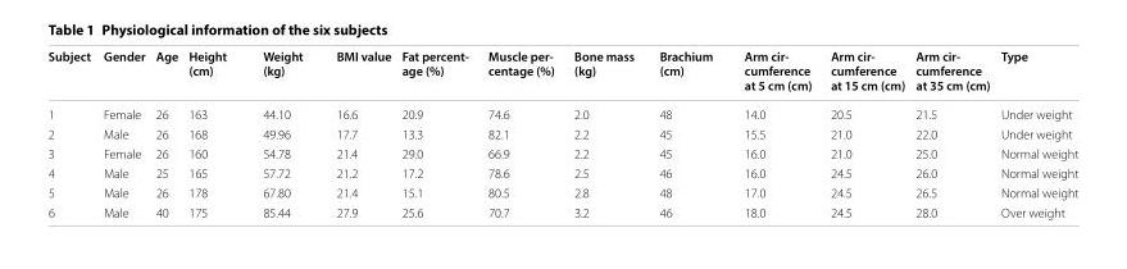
<table><thead><tr><td>Subject</td><td>Gender</td><td>Age</td><td>Height (cm)</td><td>Weight (kg)</td><td>BMI value</td><td>Fat percent- age (%)</td><td>Muscle per- centage (%)</td><td>Bone mass (kg)</td><td>Brachium (cm)</td><td>Arm cir- cumference at 5 cm (cm)</td><td>Arm cir- cumference at 15 cm (cm)</td><td>Arm cir- cumference at 35 cm (cm)</td><td>Type</td></tr></thead><tbody><tr><td>1</td><td>Female</td><td>26</td><td>163</td><td>44.10</td><td>16.6</td><td>20.9</td><td>74.6</td><td>2.0</td><td>48</td><td>14.0</td><td>20.5</td><td>21.5</td><td>Under weight</td></tr><tr><td>2</td><td>Male</td><td>26</td><td>168</td><td>49.96</td><td>17.7</td><td>13.3</td><td>82.1</td><td>2.2</td><td>45</td><td>15.5</td><td>21.0</td><td>22.0</td><td>Under weight</td></tr><tr><td>3</td><td>Female</td><td>26</td><td>160</td><td>54.78</td><td>21.4</td><td>29.0</td><td>66.9</td><td>2.2</td><td>45</td><td>16.0</td><td>21.0</td><td>25.0</td><td>Normal weight</td></tr><tr><td>4</td><td>Male</td><td>25</td><td>165</td><td>57.72</td><td>21.2</td><td>17.2</td><td>78.6</td><td>2.5</td><td>46</td><td>16.0</td><td>24.5</td><td>26.0</td><td>Normal weight</td></tr><tr><td>5</td><td>Male</td><td>26</td><td>178</td><td>67.80</td><td>21.4</td><td>15.1</td><td>80.5</td><td>2.8</td><td>48</td><td>17.0</td><td>24.5</td><td>26.5</td><td>Normal weight</td></tr><tr><td>6</td><td>Male</td><td>40</td><td>175</td><td>85.44</td><td>27.9</td><td>25.6</td><td>70.7</td><td>3.2</td><td>46</td><td>18.0</td><td>24.5</td><td>28.0</td><td>Over weight</td></tr></tbody></table>